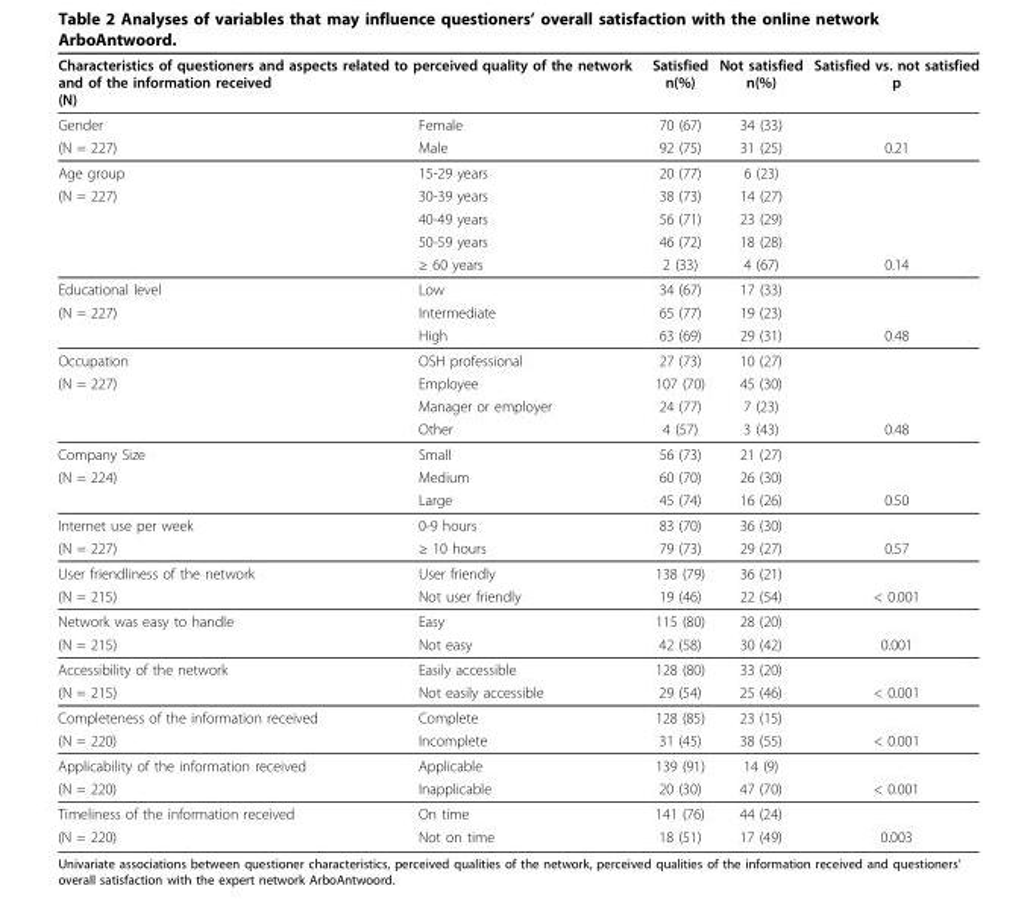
<table><thead><tr><td colspan="2">Characteristics of questioners and aspects related to perceived quality of the network and of the information received (N)</td><td rowspan="2">Satisfied n(%) 70 (67)</td><td rowspan="2">Not satisfied n(%) 34 (33)</td><td rowspan="2">Satisfied vs. not satisfied p</td></tr><tr><td>Gender</td><td>Female</td></tr></thead><tbody><tr><td>(N = 227)</td><td>Male</td><td>92 (75)</td><td>31 (25)</td><td>0.21</td></tr><tr><td>Age group</td><td>15-29 years</td><td>20 (77)</td><td>6 (23)</td><td></td></tr><tr><td rowspan="4">(N = 227)</td><td>30-39 years</td><td>38 (73)</td><td>14 (27)</td><td></td></tr><tr><td>40-49 years</td><td>56 (71)</td><td>23 (29)</td><td></td></tr><tr><td>50-59 years</td><td>46 (72)</td><td>18 (28)</td><td></td></tr><tr><td>≥ 60 years</td><td>2 (33)</td><td>4 (67)</td><td>0.14</td></tr><tr><td>Educational level</td><td>Low</td><td>34 (67)</td><td>17 (33)</td><td></td></tr><tr><td rowspan="2">(N = 227)</td><td>Intermediate</td><td>65 (77)</td><td>19 (23)</td><td></td></tr><tr><td>High</td><td>63 (69)</td><td>29 (31)</td><td>0.48</td></tr><tr><td>Occupation</td><td>OSH professional</td><td>27 (73)</td><td>10 (27)</td><td></td></tr><tr><td rowspan="3">(N = 227)</td><td>Employee</td><td>107 (70)</td><td>45 (30)</td><td></td></tr><tr><td>Manager or employer</td><td>24 (77)</td><td>7 (23)</td><td></td></tr><tr><td>Other</td><td>4 (57)</td><td>3 (43)</td><td>0.48</td></tr><tr><td>Company Size</td><td>Small</td><td>56 (73)</td><td>21 (27)</td><td></td></tr><tr><td rowspan="2">(N = 224)</td><td>Medium</td><td>60 (70)</td><td>26 (30)</td><td></td></tr><tr><td>Large</td><td>45 (74)</td><td>16 (26)</td><td>0.50</td></tr><tr><td>Internet use per week</td><td>0-9 hours</td><td>83 (70)</td><td>36 (30)</td><td></td></tr><tr><td>(N = 227)</td><td>≥ 10 hours</td><td>79 (73)</td><td>29 (27)</td><td>0.57</td></tr><tr><td>User friendliness of the network</td><td>User friendly</td><td>138 (79)</td><td>36 (21)</td><td></td></tr><tr><td>(N = 215)</td><td>Not user friendly</td><td>19 (46)</td><td>22 (54)</td><td>&lt; 0.001</td></tr><tr><td>Network was easy to handle</td><td>Easy</td><td>115 (80)</td><td>28 (20)</td><td></td></tr><tr><td>(N = 215)</td><td>Not easy</td><td>42 (58)</td><td>30 (42)</td><td>0.001</td></tr><tr><td>Accessibility of the network</td><td>Easily accessible</td><td>128 (80)</td><td>33 (20)</td><td></td></tr><tr><td>(N = 215)</td><td>Not easily accessible</td><td>29 (54)</td><td>25 (46)</td><td>&lt; 0.001</td></tr><tr><td>Completeness of the information received</td><td>Complete</td><td>128 (85)</td><td>23 (15)</td><td></td></tr><tr><td>(N = 220)</td><td>Incomplete</td><td>31 (45)</td><td>38 (55)</td><td>&lt; 0.001</td></tr><tr><td>Applicability of the information received</td><td>Applicable</td><td>139 (91)</td><td>14 (9)</td><td></td></tr><tr><td>(N = 220)</td><td>Inapplicable</td><td>20 (30)</td><td>47 (70)</td><td>&lt; 0.001</td></tr><tr><td>Timeliness of the information received</td><td>On time</td><td>141 (76)</td><td>44 (24)</td><td></td></tr><tr><td>(N = 220)</td><td>Not on time</td><td>18 (51)</td><td>17 (49)</td><td>0.003</td></tr></tbody></table>